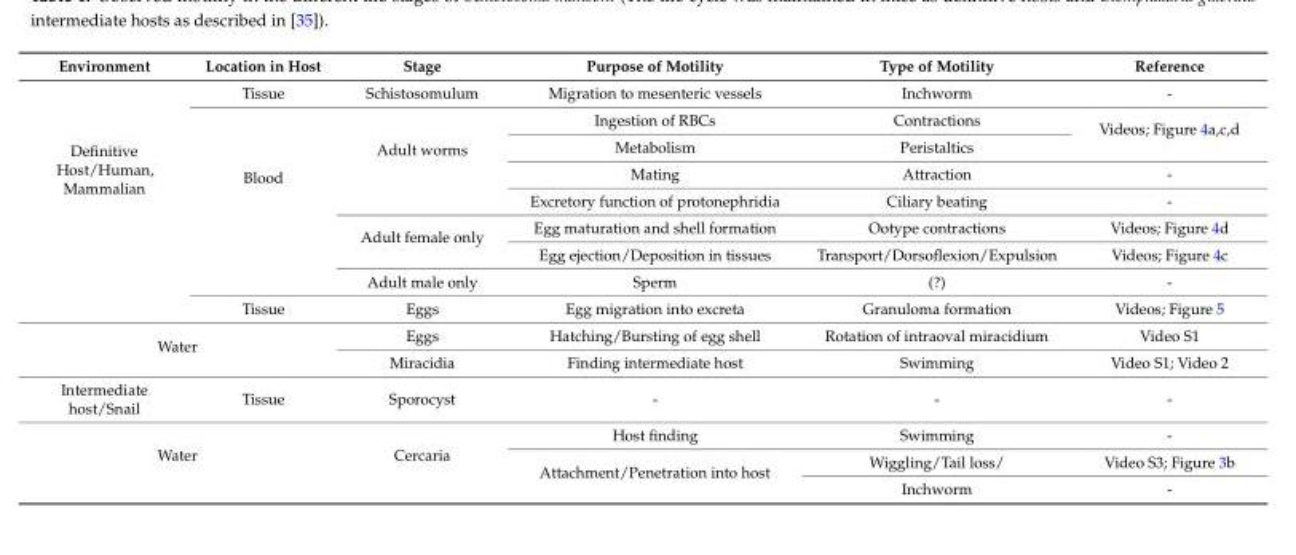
<table><thead><tr><td>Environment</td><td>Location in Host</td><td>Stage</td><td>Purpose of Motility</td><td>Type of Motility</td><td>Reference</td></tr></thead><tbody><tr><td rowspan="9">Definitive Host/Human, Mammalian</td><td>Tissue</td><td>Schistosomulum</td><td>Migration to mesenteric vessels</td><td>Inchworm</td><td>-</td></tr><tr><td rowspan="7">Blood</td><td rowspan="4">Adult worms</td><td>Ingestion of RBCs</td><td>Contractions</td><td rowspan="2">Videos; Figure 4a,c,d</td></tr><tr><td>Metabolism</td><td>Peristaltics</td></tr><tr><td>Mating</td><td>Attraction</td><td>-</td></tr><tr><td>Excretory function of protonephridia</td><td>Ciliary beating</td><td>-</td></tr><tr><td rowspan="2">Adult female only</td><td>Egg maturation and shell formation</td><td>Ootype contractions</td><td>Videos; Figure 4d</td></tr><tr><td>Egg ejection/Deposition in tissues</td><td>Transport/Dorsoflexion/Expulsion</td><td>Videos; Figure 4c</td></tr><tr><td>Adult male only</td><td>Sperm</td><td>(?)</td><td>-</td></tr><tr><td>Tissue</td><td>Eggs</td><td>Egg migration into excreta</td><td>Granuloma formation</td><td>Videos; Figure 5</td></tr><tr><td rowspan="2" colspan="2">Water</td><td>Eggs</td><td>Hatching/Bursting of egg shell</td><td>Rotation of intraoval miracidium</td><td>Video S1</td></tr><tr><td>Miracidia</td><td>Finding intermediate host</td><td>Swimming</td><td>Video S1; Video 2</td></tr><tr><td>Intermediate host/Snail</td><td>Tissue</td><td>Sporocyst</td><td>-</td><td>-</td><td>-</td></tr><tr><td rowspan="3" colspan="2">Water</td><td rowspan="3">Cercaria</td><td>Host finding</td><td>Swimming</td><td>-</td></tr><tr><td rowspan="2">Attachment/Penetration into host</td><td>Wiggling/Tail loss/</td><td>Video S3; Figure 3b</td></tr><tr><td>Inchworm</td><td>-</td></tr></tbody></table>